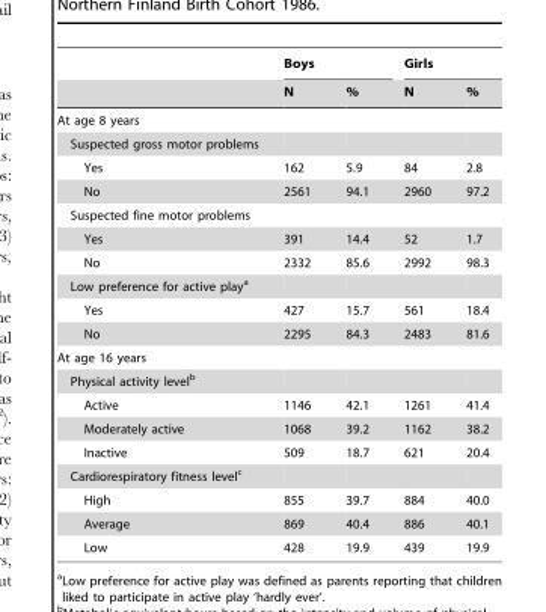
<table><thead><tr><td rowspan="2"></td><td colspan="2">Boys</td><td colspan="2">Girls</td></tr><tr><td>N</td><td>%</td><td>N</td><td>%</td></tr></thead><tbody><tr><td colspan="5">At age 8 years</td></tr><tr><td colspan="5">Suspected gross motor problems</td></tr><tr><td>Yes</td><td>162</td><td>5.9</td><td>84</td><td>2.8</td></tr><tr><td>No</td><td>2561</td><td>94.1</td><td>2960</td><td>97.2</td></tr><tr><td colspan="5">Suspected fine motor problems</td></tr><tr><td>Yes</td><td>391</td><td>14.4</td><td>52</td><td>1.7</td></tr><tr><td>No</td><td>2332</td><td>85.6</td><td>2992</td><td>98.3</td></tr><tr><td colspan="5">Low preference for active play<sup>a</sup></td></tr><tr><td>Yes</td><td>427</td><td>15.7</td><td>561</td><td>18.4</td></tr><tr><td>No</td><td>2295</td><td>84.3</td><td>2483</td><td>81.6</td></tr><tr><td colspan="5">At age 16 years</td></tr><tr><td colspan="5">Physical activity level<sup>b</sup></td></tr><tr><td>Active</td><td>1146</td><td>42.1</td><td>1261</td><td>41.4</td></tr><tr><td>Moderately active</td><td>1068</td><td>39.2</td><td>1162</td><td>38.2</td></tr><tr><td>Inactive</td><td>509</td><td>18.7</td><td>621</td><td>20.4</td></tr><tr><td colspan="5">Cardiorespiratory fitness level<sup>c</sup></td></tr><tr><td>High</td><td>855</td><td>39.7</td><td>884</td><td>40.0</td></tr><tr><td>Average</td><td>869</td><td>40.4</td><td>886</td><td>40.1</td></tr><tr><td>Low</td><td>428</td><td>19.9</td><td>439</td><td>19.9</td></tr></tbody></table>